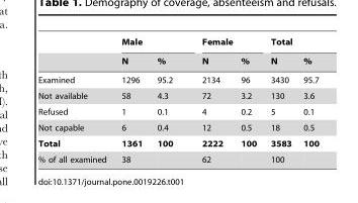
<table><thead><tr><td rowspan="2"></td><td colspan="2">Male</td><td colspan="2">Female</td><td colspan="2">Total</td></tr><tr><td>N</td><td>%</td><td>N</td><td>%</td><td>N</td><td>%</td></tr></thead><tbody><tr><td>Examined</td><td>1296</td><td>95.2</td><td>2134</td><td>96</td><td>3430</td><td>95.7</td></tr><tr><td>Not available</td><td>58</td><td>4.3</td><td>72</td><td>3.2</td><td>130</td><td>3.6</td></tr><tr><td>Refused</td><td>1</td><td>0.1</td><td>4</td><td>0.2</td><td>5</td><td>0.1</td></tr><tr><td>Not capable</td><td>6</td><td>0.4</td><td>12</td><td>0.5</td><td>18</td><td>0.5</td></tr><tr><td>Total</td><td>1361</td><td>100</td><td>2222</td><td>100</td><td>3583</td><td>100</td></tr><tr><td>% of all examined</td><td>38</td><td></td><td>62</td><td></td><td>100</td><td></td></tr></tbody></table>